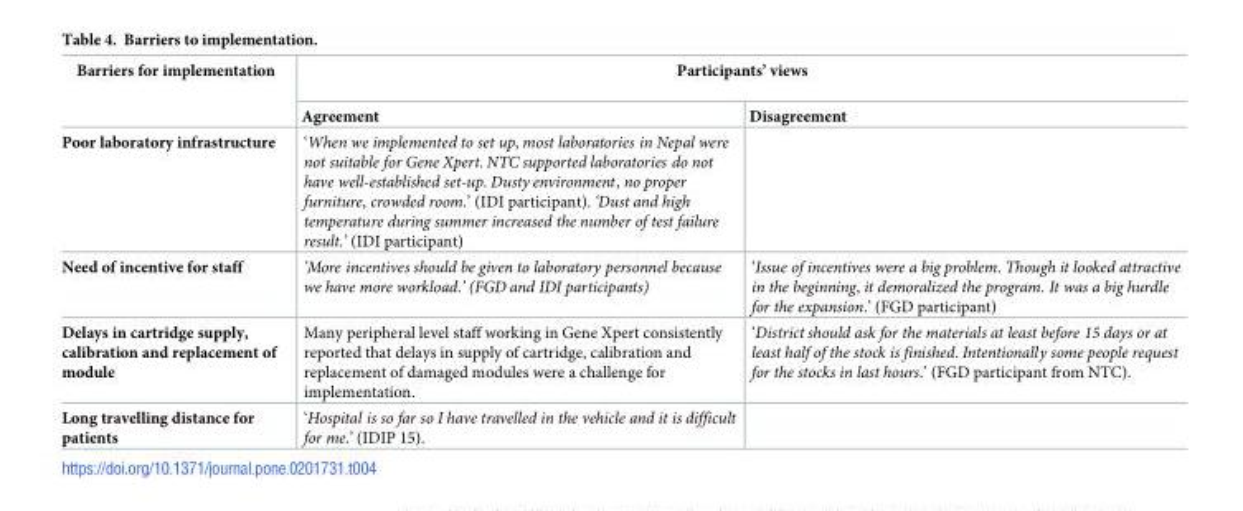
<table><thead><tr><td rowspan="2">Barriers for implementation</td><td colspan="2">Participants’ views</td></tr><tr><td>Agreement</td><td>Disagreement</td></tr></thead><tbody><tr><td>Poor laboratory infrastructure</td><td>‘When we implemented to set up, most laboratories in Nepal were not suitable for Gene Xpert. NTC supported laboratories do not have well-established set-up. Dusty environment, no proper furniture, crowded room.’ (IDI participant). ‘Dust and high temperature during summer increased the number of test failure result.’ (IDI participant)</td><td></td></tr><tr><td>Need of incentive for staff</td><td>‘More incentives should be given to laboratory personnel because we have more workload.’ (FGD and IDI participants)</td><td>‘Issue of incentives were a big problem. Though it looked attractive in the beginning, it demoralized the program. It was a big hurdle for the expansion.’ (FGD participant)</td></tr><tr><td>Delays in cartridge supply, calibration and replacement of module</td><td>Many peripheral level staff working in Gene Xpert consistently reported that delays in supply of cartridge, calibration and replacement of damaged modules were a challenge for implementation.</td><td>‘District should ask for the materials at least before 15 days or at least half of the stock is finished. Intentionally some people request for the stocks in last hours.’ (FGD participant from NTC).</td></tr><tr><td>Long travelling distance for patients</td><td>‘Hospital is so far so I have travelled in the vehicle and it is difficult for me.’ (IDIP 15).</td><td></td></tr></tbody></table>